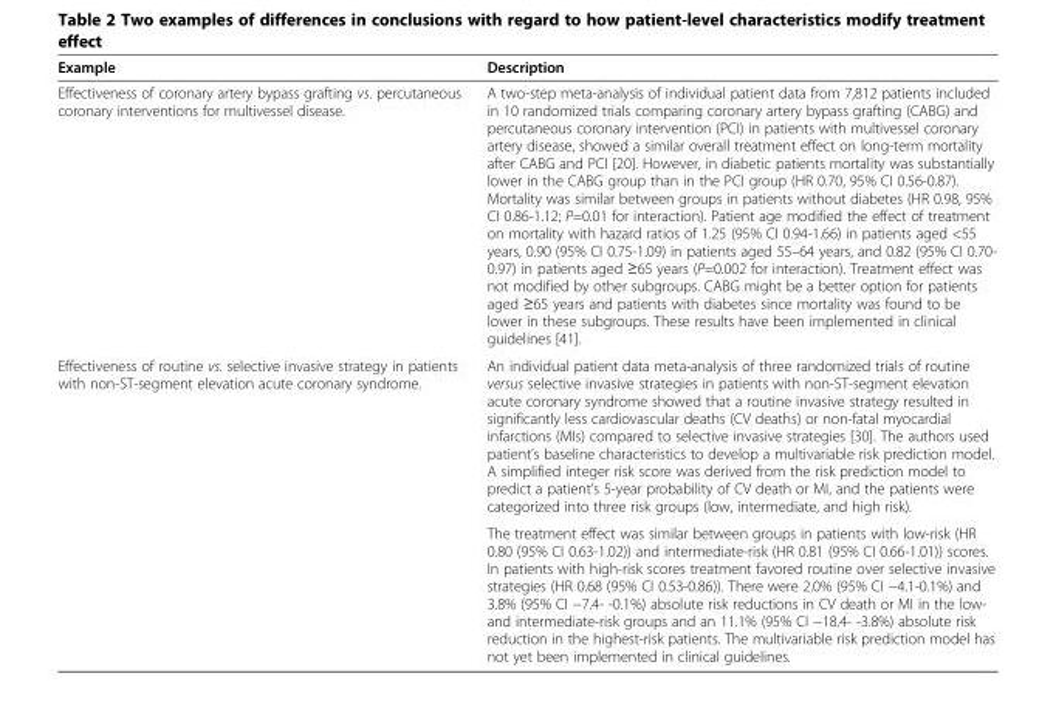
<table><thead><tr><td>Example</td><td>Description</td></tr></thead><tbody><tr><td>Effectiveness of coronary artery bypass grafting vs. percutaneous coronary interventions for multivessel disease.</td><td>A two-step meta-analysis of individual patient data from 7,812 patients included in 10 randomized trials comparing coronary artery bypass grafting (CABG) and percutaneous coronary intervention (PCI) in patients with multivessel coronary artery disease, showed a similar overall treatment effect on long-term mortality after CABG and PCI [20]. However, in diabetic patients mortality was substantially lower in the CABG group than in the PCI group (HR 0.70, 95% CI 0.56-0.87). Mortality was similar between groups in patients without diabetes (HR 0.98, 95% CI 0.86-1.12; P=0.01 for interaction). Patient age modified the effect of treatment on mortality with hazard ratios of 1.25 (95% CI 0.94-1.66) in patients aged &lt;55 years, 0.90 (95% CI 0.75-1.09) in patients aged 55–64 years, and 0.82 (95% CI 0.70- 0.97) in patients aged ≥65 years (P=0.002 for interaction). Treatment effect was not modified by other subgroups. CABG might be a better option for patients aged ≥65 years and patients with diabetes since mortality was found to be lower in these subgroups. These results have been implemented in clinical guidelines [41].</td></tr><tr><td rowspan="2">Effectiveness of routine vs. selective invasive strategy in patients with non-ST-segment elevation acute coronary syndrome.</td><td>An individual patient data meta-analysis of three randomized trials of routine versus selective invasive strategies in patients with non-ST-segment elevation acute coronary syndrome showed that a routine invasive strategy resulted in significantly less cardiovascular deaths (CV deaths) or non-fatal myocardial infarctions (MIs) compared to selective invasive strategies [30]. The authors used patient’s baseline characteristics to develop a multivariable risk prediction model. A simplified integer risk score was derived from the risk prediction model to predict a patient’s 5-year probability of CV death or MI, and the patients were categorized into three risk groups (low, intermediate, and high risk).</td></tr><tr><td>The treatment effect was similar between groups in patients with low-risk (HR 0.80 (95% CI 0.63-1.02)) and intermediate-risk (HR 0.81 (95% CI 0.66-1.01)) scores. In patients with high-risk scores treatment favored routine over selective invasive strategies (HR 0.68 (95% CI 0.53-0.86)). There were 2.0% (95% CI −4.1-0.1%) and 3.8% (95% CI −7.4- -0.1%) absolute risk reductions in CV death or MI in the low- and intermediate-risk groups and an 11.1% (95% CI −18.4- -3.8%) absolute risk reduction in the highest-risk patients. The multivariable risk prediction model has not yet been implemented in clinical guidelines.</td></tr></tbody></table>